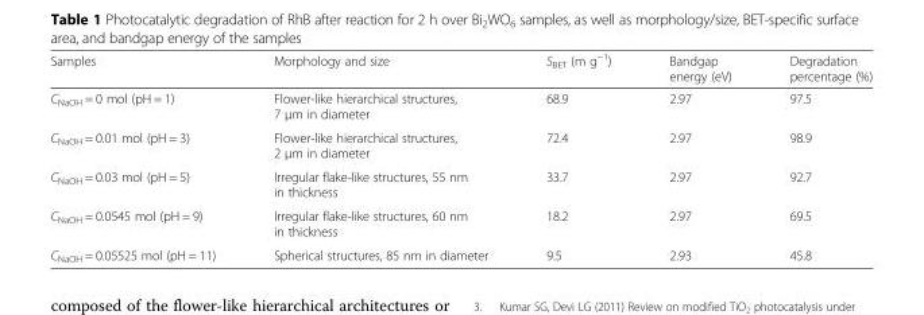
<table><thead><tr><td>Samples</td><td>Morphology and size</td><td>S<sub>BET</sub> (m g<sup>−1</sup>)</td><td>Bandgap energy (eV)</td><td>Degradation percentage (%)</td></tr></thead><tbody><tr><td>C<sub>NaOH</sub> = 0 mol (pH = 1)</td><td>Flower-like hierarchical structures, 7 μm in diameter</td><td>68.9</td><td>2.97</td><td>97.5</td></tr><tr><td>C<sub>NaOH</sub> = 0.01 mol (pH = 3)</td><td>Flower-like hierarchical structures, 2 μm in diameter</td><td>72.4</td><td>2.97</td><td>98.9</td></tr><tr><td>C<sub>NaOH</sub> = 0.03 mol (pH = 5)</td><td>Irregular flake-like structures, 55 nm in thickness</td><td>33.7</td><td>2.97</td><td>92.7</td></tr><tr><td>C<sub>NaOH</sub> = 0.0545 mol (pH = 9)</td><td>Irregular flake-like structures, 60 nm in thickness</td><td>18.2</td><td>2.97</td><td>69.5</td></tr><tr><td>C<sub>NaOH</sub> = 0.05525 mol (pH = 11)</td><td>Spherical structures, 85 nm in diameter</td><td>9.5</td><td>2.93</td><td>45.8</td></tr></tbody></table>